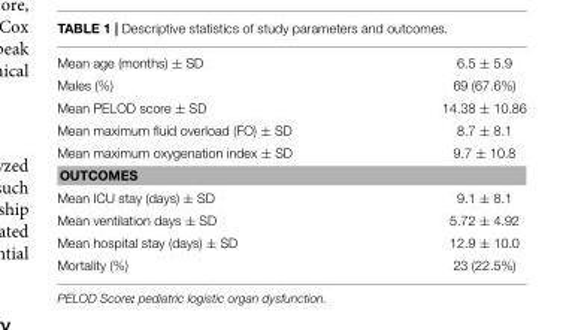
<table><tbody><tr><td>Mean age (months) ± SD</td><td>6.5 ± 5.9</td></tr><tr><td>Males (%)</td><td>69 (67.6%)</td></tr><tr><td>Mean PELOD score ± SD</td><td>14.38 ± 10.86</td></tr><tr><td>Mean maximum fluid overload (FO) ± SD</td><td>8.7 ± 8.1</td></tr><tr><td>Mean maximum oxygenation index ± SD</td><td>9.7 ± 10.8</td></tr><tr><td colspan="2">OUTCOMES</td></tr><tr><td>Mean ICU stay (days) ± SD</td><td>9.1 ± 8.1</td></tr><tr><td>Mean ventilation days ± SD</td><td>5.72 ± 4.92</td></tr><tr><td>Mean hospital stay (days) ± SD</td><td>12.9 ± 10.0</td></tr><tr><td>Mortality (%)</td><td>23 (22.5%)</td></tr></tbody></table>